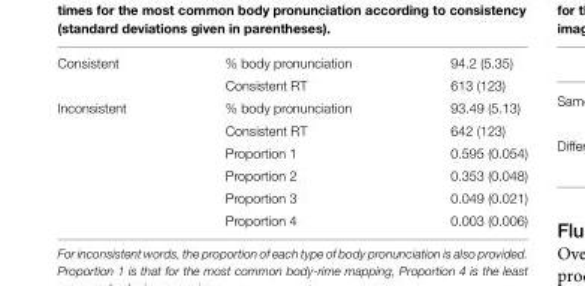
<table><tbody><tr><td rowspan="2">Consistent</td><td>% body pronunciation</td><td>94.2 (5.35)</td></tr><tr><td>Consistent RT</td><td>613 (123)</td></tr><tr><td rowspan="6">Inconsistent</td><td>% body pronunciation</td><td>93.49 (5.13)</td></tr><tr><td>Consistent RT</td><td>642 (123)</td></tr><tr><td>Proportion 1</td><td>0.595 (0.054)</td></tr><tr><td>Proportion 2</td><td>0.353 (0.048)</td></tr><tr><td>Proportion 3</td><td>0.049 (0.021)</td></tr><tr><td>Proportion 4</td><td>0.003 (0.006)</td></tr></tbody></table>